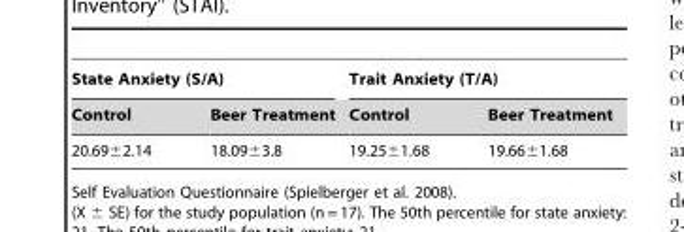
<table><thead><tr><td colspan="2">State Anxiety (S/A)</td><td colspan="2">Trait Anxiety (T/A)</td></tr><tr><td>Control</td><td>Beer Treatment</td><td>Control</td><td>Beer Treatment</td></tr></thead><tbody><tr><td>20.69±2.14</td><td>18.09±3.8</td><td>19.25±1.68</td><td>19.66±1.68</td></tr></tbody></table>